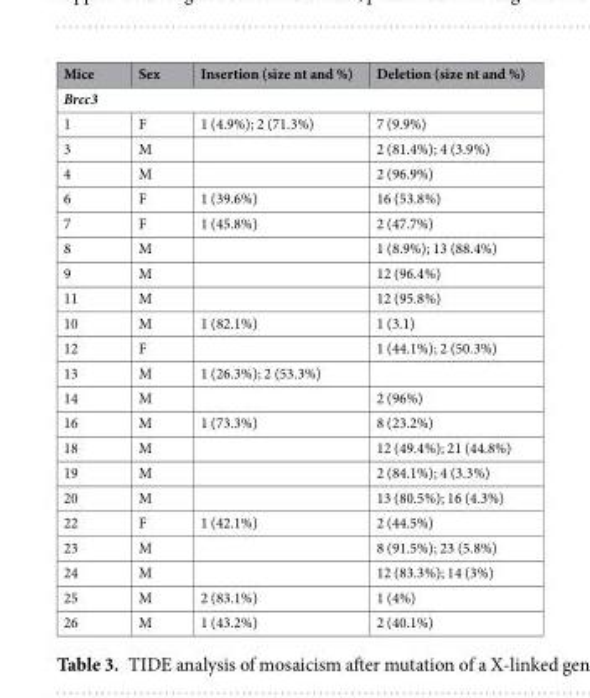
<table><thead><tr><td>Mice</td><td>Sex</td><td>Insertion (size nt and %)</td><td>Deletion (size nt and %)</td></tr></thead><tbody><tr><td colspan="4">Brcc3</td></tr><tr><td>1</td><td>F</td><td>1 (4.9%); 2 (71.3%)</td><td>7 (9.9%)</td></tr><tr><td>3</td><td>M</td><td></td><td>2 (81.4%); 4 (3.9%)</td></tr><tr><td>4</td><td>M</td><td></td><td>2 (96.9%)</td></tr><tr><td>6</td><td>F</td><td>1 (39.6%)</td><td>16 (53.8%)</td></tr><tr><td>7</td><td>F</td><td>1 (45.8%)</td><td>2 (47.7%)</td></tr><tr><td>8</td><td>M</td><td></td><td>1 (8.9%); 13 (88.4%)</td></tr><tr><td>9</td><td>M</td><td></td><td>12 (96.4%)</td></tr><tr><td>11</td><td>M</td><td></td><td>12 (95.8%)</td></tr><tr><td>10</td><td>M</td><td>1 (82.1%)</td><td>1 (3.1)</td></tr><tr><td>12</td><td>F</td><td></td><td>1 (44.1%); 2 (50.3%)</td></tr><tr><td>13</td><td>M</td><td>1 (26.3%); 2 (53.3%)</td><td></td></tr><tr><td>14</td><td>M</td><td></td><td>2 (96%)</td></tr><tr><td>16</td><td>M</td><td>1 (73.3%)</td><td>8 (23.2%)</td></tr><tr><td>18</td><td>M</td><td></td><td>12 (49.4%); 21 (44.8%)</td></tr><tr><td>19</td><td>M</td><td></td><td>2 (84.1%); 4 (3.3%)</td></tr><tr><td>20</td><td>M</td><td></td><td>13 (80.5%); 16 (4.3%)</td></tr><tr><td>22</td><td>F</td><td>1 (42.1%)</td><td>2 (44.5%)</td></tr><tr><td>23</td><td>M</td><td></td><td>8 (91.5%); 23 (5.8%)</td></tr><tr><td>24</td><td>M</td><td></td><td>12 (83.3%); 14 (3%)</td></tr><tr><td>25</td><td>M</td><td>2 (83.1%)</td><td>1 (4%)</td></tr><tr><td>26</td><td>M</td><td>1 (43.2%)</td><td>2 (40.1%)</td></tr></tbody></table>